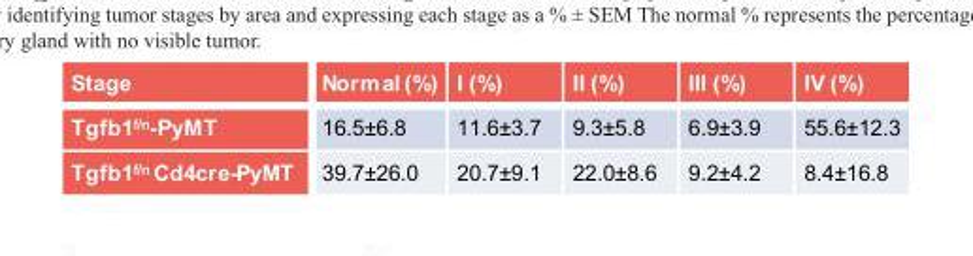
<table><thead><tr><td>Stage</td><td>Normal (%)</td><td>I (%)</td><td>II (%)</td><td>III (%)</td><td>IV (%)</td></tr></thead><tbody><tr><td>Tgfb1<sup>f/n</sup>-PyMT</td><td>16.5±6.8</td><td>11.6±3.7</td><td>9.3±5.8</td><td>6.9±3.9</td><td>55.6±12.3</td></tr><tr><td>Tgfb1<sup>f/n</sup> Cd4cre-PyMT</td><td>39.7±26.0</td><td>20.7±9.1</td><td>22.0±8.6</td><td>9.2±4.2</td><td>8.4±16.8</td></tr></tbody></table>